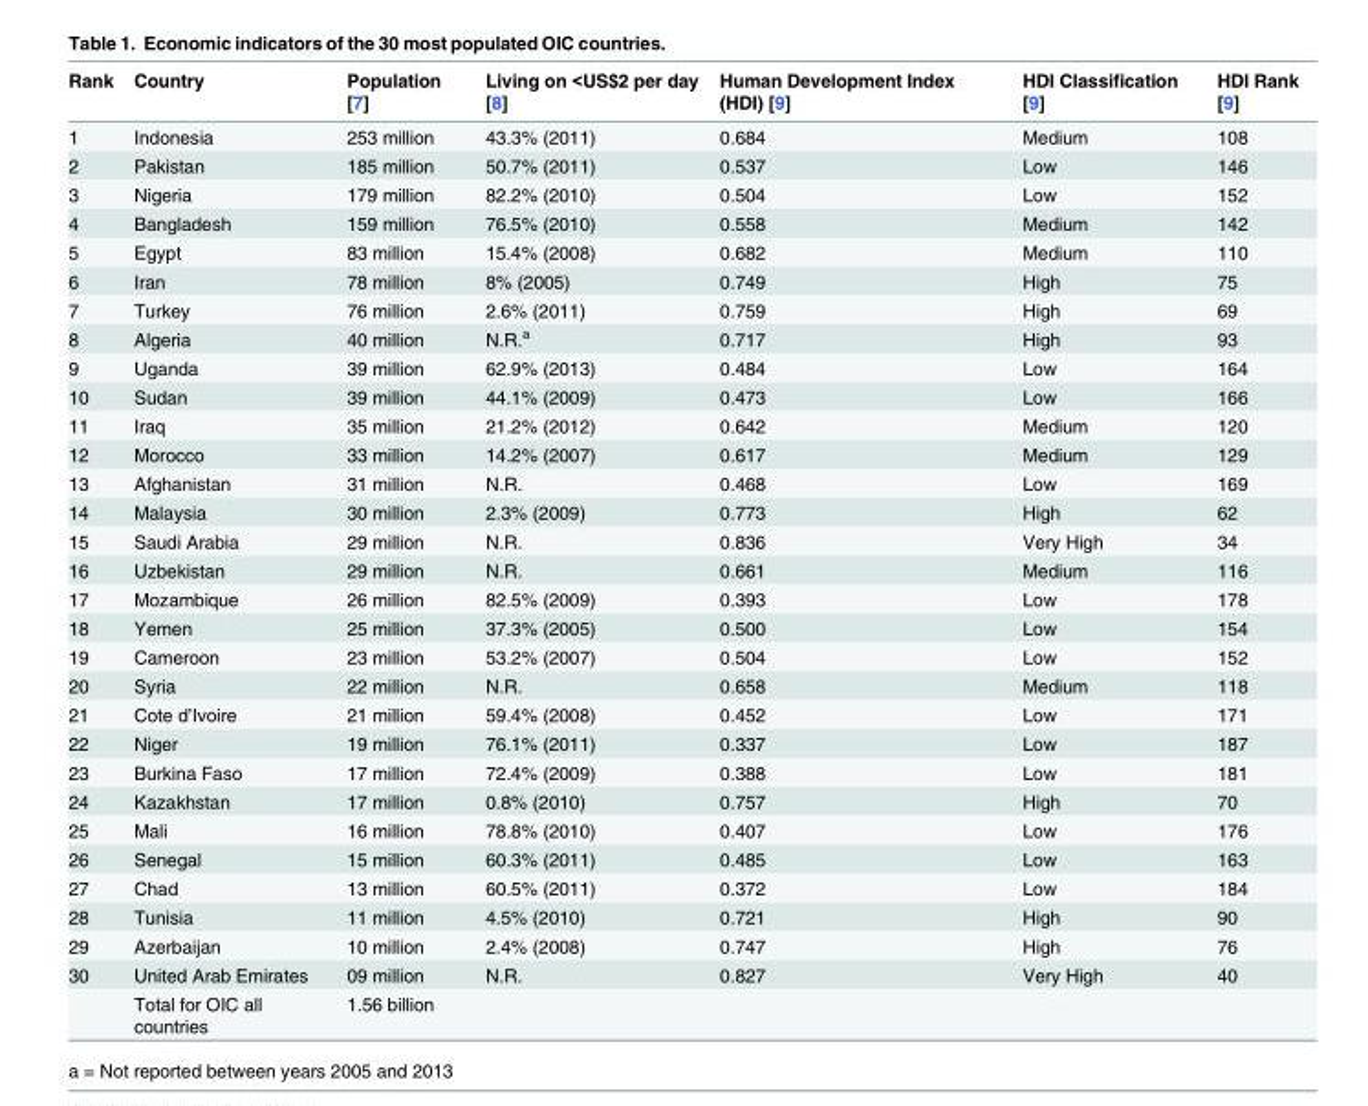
<table><thead><tr><td>Rank</td><td>Country</td><td>Population [7]</td><td>Living on &lt;US$2 per day [8]</td><td>Human Development Index (HDI) [9]</td><td>HDI Classification [9]</td><td>HDI Rank [9]</td></tr></thead><tbody><tr><td>1</td><td>Indonesia</td><td>253 million</td><td>43.3% (2011)</td><td>0.684</td><td>Medium</td><td>108</td></tr><tr><td>2</td><td>Pakistan</td><td>185 million</td><td>50.7% (2011)</td><td>0.537</td><td>Low</td><td>146</td></tr><tr><td>3</td><td>Nigeria</td><td>179 million</td><td>82.2% (2010)</td><td>0.504</td><td>Low</td><td>152</td></tr><tr><td>4</td><td>Bangladesh</td><td>159 million</td><td>76.5% (2010)</td><td>0.558</td><td>Medium</td><td>142</td></tr><tr><td>5</td><td>Egypt</td><td>83 million</td><td>15.4% (2008)</td><td>0.682</td><td>Medium</td><td>110</td></tr><tr><td>6</td><td>Iran</td><td>78 million</td><td>8% (2005)</td><td>0.749</td><td>High</td><td>75</td></tr><tr><td>7</td><td>Turkey</td><td>76 million</td><td>2.6% (2011)</td><td>0.759</td><td>High</td><td>69</td></tr><tr><td>8</td><td>Algeria</td><td>40 million</td><td>N.R.<sup>a</sup></td><td>0.717</td><td>High</td><td>93</td></tr><tr><td>9</td><td>Uganda</td><td>39 million</td><td>62.9% (2013)</td><td>0.484</td><td>Low</td><td>164</td></tr><tr><td>10</td><td>Sudan</td><td>39 million</td><td>44.1% (2009)</td><td>0.473</td><td>Low</td><td>166</td></tr><tr><td>11</td><td>Iraq</td><td>35 million</td><td>21.2% (2012)</td><td>0.642</td><td>Medium</td><td>120</td></tr><tr><td>12</td><td>Morocco</td><td>33 million</td><td>14.2% (2007)</td><td>0.617</td><td>Medium</td><td>129</td></tr><tr><td>13</td><td>Afghanistan</td><td>31 million</td><td>N.R.</td><td>0.468</td><td>Low</td><td>169</td></tr><tr><td>14</td><td>Malaysia</td><td>30 million</td><td>2.3% (2009)</td><td>0.773</td><td>High</td><td>62</td></tr><tr><td>15</td><td>Saudi Arabia</td><td>29 million</td><td>N.R.</td><td>0.836</td><td>Very High</td><td>34</td></tr><tr><td>16</td><td>Uzbekistan</td><td>29 million</td><td>N.R.</td><td>0.661</td><td>Medium</td><td>116</td></tr><tr><td>17</td><td>Mozambique</td><td>26 million</td><td>82.5% (2009)</td><td>0.393</td><td>Low</td><td>178</td></tr><tr><td>18</td><td>Yemen</td><td>25 million</td><td>37.3% (2005)</td><td>0.500</td><td>Low</td><td>154</td></tr><tr><td>19</td><td>Cameroon</td><td>23 million</td><td>53.2% (2007)</td><td>0.504</td><td>Low</td><td>152</td></tr><tr><td>20</td><td>Syria</td><td>22 million</td><td>N.R.</td><td>0.658</td><td>Medium</td><td>118</td></tr><tr><td>21</td><td>Cote d’Ivoire</td><td>21 million</td><td>59.4% (2008)</td><td>0.452</td><td>Low</td><td>171</td></tr><tr><td>22</td><td>Niger</td><td>19 million</td><td>76.1% (2011)</td><td>0.337</td><td>Low</td><td>187</td></tr><tr><td>23</td><td>Burkina Faso</td><td>17 million</td><td>72.4% (2009)</td><td>0.388</td><td>Low</td><td>181</td></tr><tr><td>24</td><td>Kazakhstan</td><td>17 million</td><td>0.8% (2010)</td><td>0.757</td><td>High</td><td>70</td></tr><tr><td>25</td><td>Mali</td><td>16 million</td><td>78.8% (2010)</td><td>0.407</td><td>Low</td><td>176</td></tr><tr><td>26</td><td>Senegal</td><td>15 million</td><td>60.3% (2011)</td><td>0.485</td><td>Low</td><td>163</td></tr><tr><td>27</td><td>Chad</td><td>13 million</td><td>60.5% (2011)</td><td>0.372</td><td>Low</td><td>184</td></tr><tr><td>28</td><td>Tunisia</td><td>11 million</td><td>4.5% (2010)</td><td>0.721</td><td>High</td><td>90</td></tr><tr><td>29</td><td>Azerbaijan</td><td>10 million</td><td>2.4% (2008)</td><td>0.747</td><td>High</td><td>76</td></tr><tr><td rowspan="2">30</td><td>United Arab Emirates</td><td>09 million</td><td>N.R.</td><td>0.827</td><td>Very High</td><td>40</td></tr><tr><td>Total for OIC all countries</td><td>1.56 billion</td><td></td><td></td><td></td><td></td></tr></tbody></table>